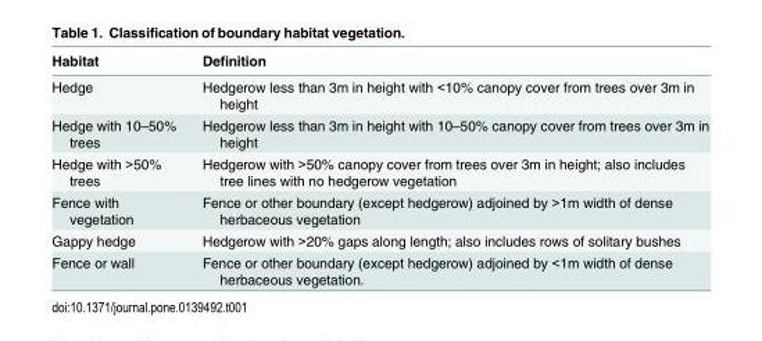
<table><thead><tr><td>Habitat</td><td>Definition</td></tr></thead><tbody><tr><td>Hedge</td><td>Hedgerow less than 3m in height with &lt;10% canopy cover from trees over 3m in height</td></tr><tr><td>Hedge with 10–50% trees</td><td>Hedgerow less than 3m in height with 10–50% canopy cover from trees over 3m in height</td></tr><tr><td>Hedge with &gt;50% trees</td><td>Hedgerow with &gt;50% canopy cover from trees over 3m in height; also includes tree lines with no hedgerow vegetation</td></tr><tr><td>Fence with vegetation</td><td>Fence or other boundary (except hedgerow) adjoined by &gt;1m width of dense herbaceous vegetation</td></tr><tr><td>Gappy hedge</td><td>Hedgerow with &gt;20% gaps along length; also includes rows of solitary bushes</td></tr><tr><td>Fence or wall</td><td>Fence or other boundary (except hedgerow) adjoined by &lt;1m width of dense herbaceous vegetation.</td></tr></tbody></table>